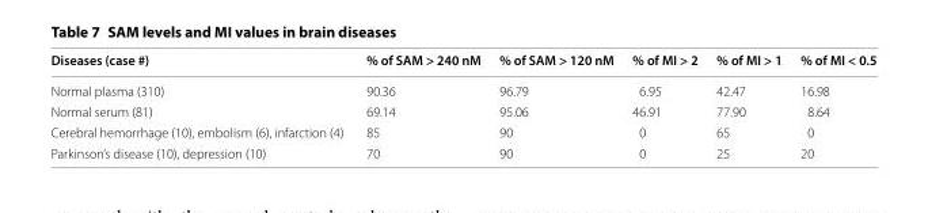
<table><thead><tr><td>Diseases (case #)</td><td>% of SAM &gt; 240 nM</td><td>% of SAM &gt; 120 nM</td><td>% of MI &gt; 2</td><td>% of MI &gt; 1</td><td>% of MI &lt; 0.5</td></tr></thead><tbody><tr><td>Normal plasma (310)</td><td>90.36</td><td>96.79</td><td>6.95</td><td>42.47</td><td>16.98</td></tr><tr><td>Normal serum (81)</td><td>69.14</td><td>95.06</td><td>46.91</td><td>77.90</td><td>8.64</td></tr><tr><td>Cerebral hemorrhage (10), embolism (6), infarction (4)</td><td>85</td><td>90</td><td>0</td><td>65</td><td>0</td></tr><tr><td>Parkinson’s disease (10), depression (10)</td><td>70</td><td>90</td><td>0</td><td>25</td><td>20</td></tr></tbody></table>